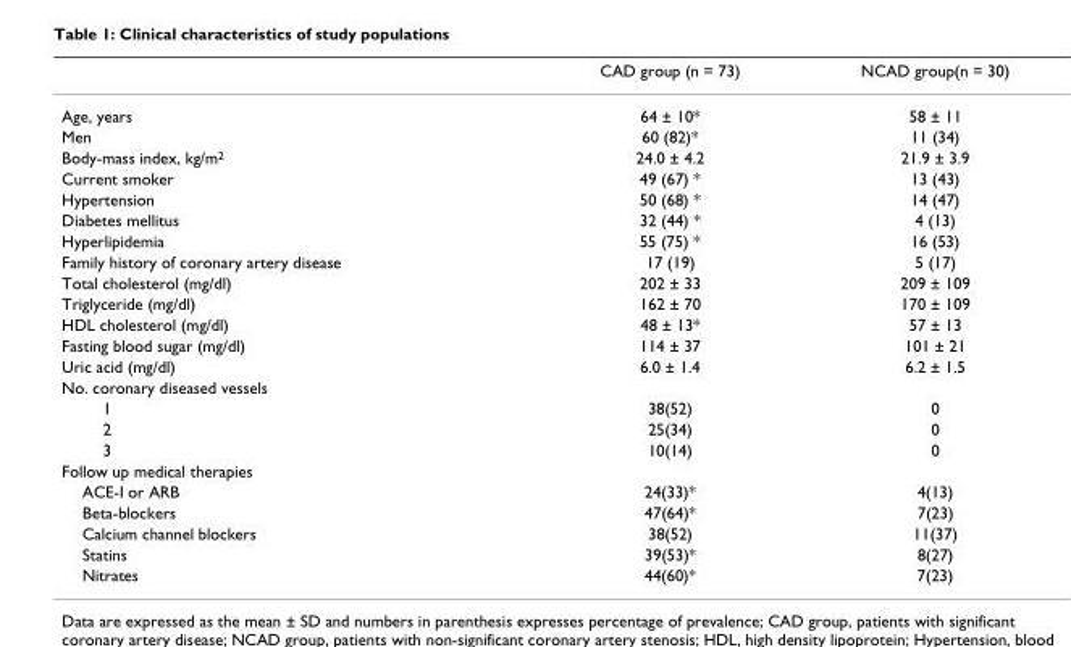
<table><thead><tr><td></td><td>CAD group (n = 73)</td><td>NCAD group(n = 30)</td></tr></thead><tbody><tr><td>Age, years</td><td>64 ± 10*</td><td>58 ± 11</td></tr><tr><td>Men</td><td>60 (82)*</td><td>11 (34)</td></tr><tr><td>Body-mass index, kg/m<sup>2</sup></td><td>24.0 ± 4.2</td><td>21.9 ± 3.9</td></tr><tr><td>Current smoker</td><td>49 (67) *</td><td>13 (43)</td></tr><tr><td>Hypertension</td><td>50 (68) *</td><td>14 (47)</td></tr><tr><td>Diabetes mellitus</td><td>32 (44) *</td><td>4 (13)</td></tr><tr><td>Hyperlipidemia</td><td>55 (75) *</td><td>16 (53)</td></tr><tr><td>Family history of coronary artery disease</td><td>17 (19)</td><td>5 (17)</td></tr><tr><td>Total cholesterol (mg/dl)</td><td>202 ± 33</td><td>209 ± 109</td></tr><tr><td>Triglyceride (mg/dl)</td><td>162 ± 70</td><td>170 ± 109</td></tr><tr><td>HDL cholesterol (mg/dl)</td><td>48 ± 13*</td><td>57 ± 13</td></tr><tr><td>Fasting blood sugar (mg/dl)</td><td>114 ± 37</td><td>101 ± 21</td></tr><tr><td>Uric acid (mg/dl)</td><td>6.0 ± 1.4</td><td>6.2 ± 1.5</td></tr><tr><td colspan="3">No. coronary diseased vessels</td></tr><tr><td>1</td><td>38(52)</td><td>0</td></tr><tr><td>2</td><td>25(34)</td><td>0</td></tr><tr><td>3</td><td>10(14)</td><td>0</td></tr><tr><td colspan="3">Follow up medical therapies</td></tr><tr><td>ACE-I or ARB</td><td>24(33)*</td><td>4(13)</td></tr><tr><td>Beta-blockers</td><td>47(64)*</td><td>7(23)</td></tr><tr><td>Calcium channel blockers</td><td>38(52)</td><td>11(37)</td></tr><tr><td>Statins</td><td>39(53)*</td><td>8(27)</td></tr><tr><td>Nitrates</td><td>44(60)*</td><td>7(23)</td></tr></tbody></table>